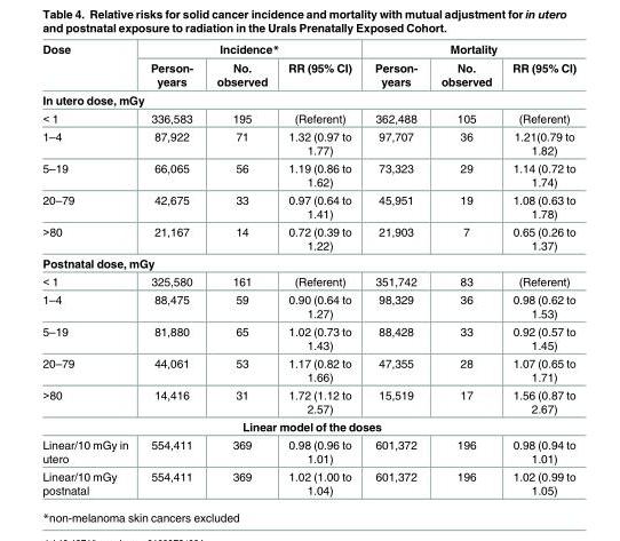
<table><thead><tr><td rowspan="2">Dose</td><td colspan="3">Incidence*</td><td colspan="3">Mortality</td></tr><tr><td>Person- years</td><td>No. observed</td><td>RR (95% CI)</td><td>Person- years</td><td>No. observed</td><td>RR (95% CI)</td></tr></thead><tbody><tr><td colspan="7">In utero dose, mGy</td></tr><tr><td>&lt; 1</td><td>336,583</td><td>195</td><td>(Referent)</td><td>362,488</td><td>105</td><td>(Referent)</td></tr><tr><td>1–4</td><td>87,922</td><td>71</td><td>1.32 (0.97 to 1.77)</td><td>97,707</td><td>36</td><td>1.21(0.79 to 1.82)</td></tr><tr><td>5–19</td><td>66,065</td><td>56</td><td>1.19 (0.86 to 1.62)</td><td>73,323</td><td>29</td><td>1.14 (0.72 to 1.74)</td></tr><tr><td>20–79</td><td>42,675</td><td>33</td><td>0.97 (0.64 to 1.41)</td><td>45,951</td><td>19</td><td>1.08 (0.63 to 1.78)</td></tr><tr><td>&gt;80</td><td>21,167</td><td>14</td><td>0.72 (0.39 to 1.22)</td><td>21,903</td><td>7</td><td>0.65 (0.26 to 1.37)</td></tr><tr><td colspan="7">Postnatal dose, mGy</td></tr><tr><td>&lt; 1</td><td>325,580</td><td>161</td><td>(Referent)</td><td>351,742</td><td>83</td><td>(Referent)</td></tr><tr><td>1–4</td><td>88,475</td><td>59</td><td>0.90 (0.64 to 1.27)</td><td>98,329</td><td>36</td><td>0.98 (0.62 to 1.53)</td></tr><tr><td>5–19</td><td>81,880</td><td>65</td><td>1.02 (0.73 to 1.43)</td><td>88,428</td><td>33</td><td>0.92 (0.57 to 1.45)</td></tr><tr><td>20–79</td><td>44,061</td><td>53</td><td>1.17 (0.82 to 1.66)</td><td>47,355</td><td>28</td><td>1.07 (0.65 to 1.71)</td></tr><tr><td>&gt;80</td><td>14,416</td><td>31</td><td>1.72 (1.12 to 2.57)</td><td>15,519</td><td>17</td><td>1.56 (0.87 to 2.67)</td></tr><tr><td colspan="7">Linear model of the doses</td></tr><tr><td>Linear/10 mGy in utero</td><td>554,411</td><td>369</td><td>0.98 (0.96 to 1.01)</td><td>601,372</td><td>196</td><td>0.98 (0.94 to 1.01)</td></tr><tr><td>Linear/10 mGy postnatal</td><td>554,411</td><td>369</td><td>1.02 (1.00 to 1.04)</td><td>601,372</td><td>196</td><td>1.02 (0.99 to 1.05)</td></tr></tbody></table>